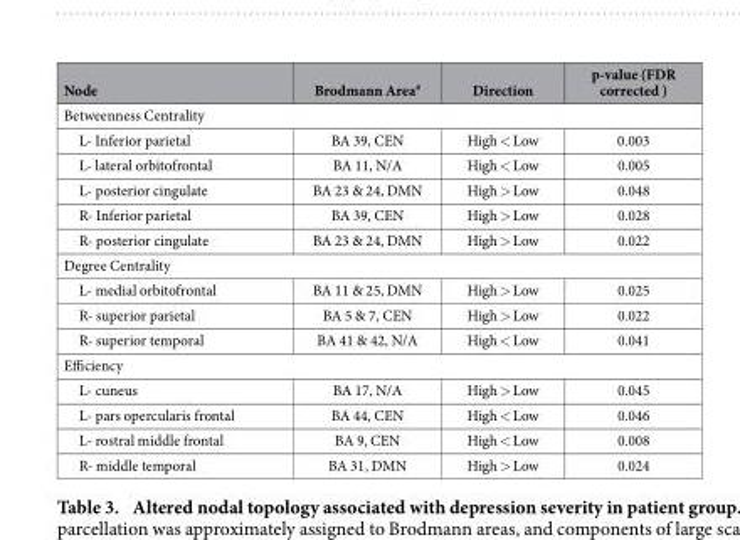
<table><thead><tr><td>Node</td><td>Brodmann Area#</td><td>Direction</td><td>p-value (FDR corrected )</td></tr></thead><tbody><tr><td colspan="4">Betweenness Centrality</td></tr><tr><td>L- Inferior parietal</td><td>BA 39, CEN</td><td>High &lt; Low</td><td>0.003</td></tr><tr><td>L- lateral orbitofrontal</td><td>BA 11, N/A</td><td>High &lt; Low</td><td>0.005</td></tr><tr><td>L- posterior cingulate</td><td>BA 23 &amp; 24, DMN</td><td>High &gt; Low</td><td>0.048</td></tr><tr><td>R- Inferior parietal</td><td>BA 39, CEN</td><td>High &gt; Low</td><td>0.028</td></tr><tr><td>R- posterior cingulate</td><td>BA 23 &amp; 24, DMN</td><td>High &gt; Low</td><td>0.022</td></tr><tr><td colspan="4">Degree Centrality</td></tr><tr><td>L- medial orbitofrontal</td><td>BA 11 &amp; 25, DMN</td><td>High &gt; Low</td><td>0.025</td></tr><tr><td>R- superior parietal</td><td>BA 5 &amp; 7, CEN</td><td>High &gt; Low</td><td>0.022</td></tr><tr><td>R- superior temporal</td><td>BA 41 &amp; 42, N/A</td><td>High &lt; Low</td><td>0.041</td></tr><tr><td colspan="4">Efficiency</td></tr><tr><td>L- cuneus</td><td>BA 17, N/A</td><td>High &gt; Low</td><td>0.045</td></tr><tr><td>L- pars opercularis frontal</td><td>BA 44, CEN</td><td>High &lt; Low</td><td>0.046</td></tr><tr><td>L- rostral middle frontal</td><td>BA 9, CEN</td><td>High &lt; Low</td><td>0.008</td></tr><tr><td>R- middle temporal</td><td>BA 31, DMN</td><td>High &gt; Low</td><td>0.024</td></tr></tbody></table>